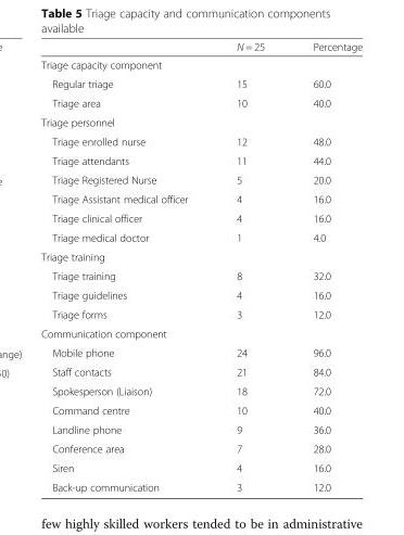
<table><thead><tr><td></td><td>N = 25</td><td>Percentage</td></tr></thead><tbody><tr><td colspan="3">Triage capacity component</td></tr><tr><td>Regular triage</td><td>15</td><td>60.0</td></tr><tr><td>Triage area</td><td>10</td><td>40.0</td></tr><tr><td colspan="3">Triage personnel</td></tr><tr><td>Triage enrolled nurse</td><td>12</td><td>48.0</td></tr><tr><td>Triage attendants</td><td>11</td><td>44.0</td></tr><tr><td>Triage Registered Nurse</td><td>5</td><td>20.0</td></tr><tr><td>Triage Assistant medical officer</td><td>4</td><td>16.0</td></tr><tr><td>Triage clinical officer</td><td>4</td><td>16.0</td></tr><tr><td>Triage medical doctor</td><td>1</td><td>4.0</td></tr><tr><td colspan="3">Triage training</td></tr><tr><td>Triage training</td><td>8</td><td>32.0</td></tr><tr><td>Triage guidelines</td><td>4</td><td>16.0</td></tr><tr><td>Triage forms</td><td>3</td><td>12.0</td></tr><tr><td colspan="3">Communication component</td></tr><tr><td>Mobile phone</td><td>24</td><td>96.0</td></tr><tr><td>Staff contacts</td><td>21</td><td>84.0</td></tr><tr><td>Spokesperson (Liaison)</td><td>18</td><td>72.0</td></tr><tr><td>Command centre</td><td>10</td><td>40.0</td></tr><tr><td>Landline phone</td><td>9</td><td>36.0</td></tr><tr><td>Conference area</td><td>7</td><td>28.0</td></tr><tr><td>Siren</td><td>4</td><td>16.0</td></tr><tr><td>Back-up communication</td><td>3</td><td>12.0</td></tr></tbody></table>